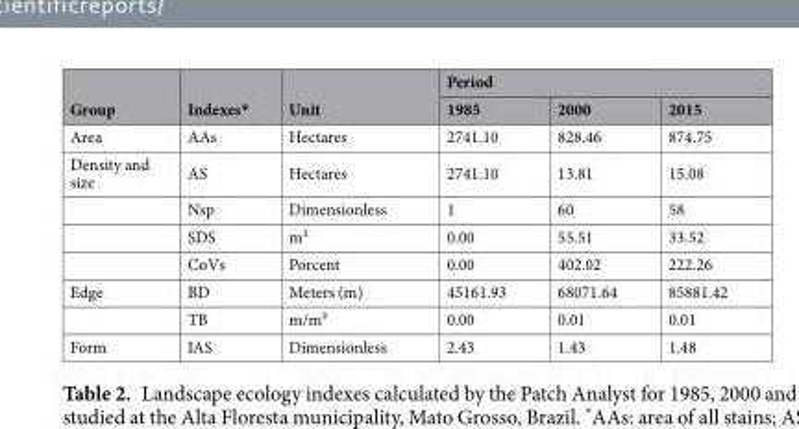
<table><thead><tr><td rowspan="2">Group</td><td rowspan="2">Indexes*</td><td rowspan="2">Unit</td><td colspan="3">Period</td></tr><tr><td>1985</td><td>2000</td><td>2015</td></tr></thead><tbody><tr><td>Area</td><td>AAs</td><td>Hectares</td><td>2741.10</td><td>828.46</td><td>874.75</td></tr><tr><td rowspan="4">Density and size</td><td>AS</td><td>Hectares</td><td>2741.10</td><td>13.81</td><td>15.08</td></tr><tr><td>Nsp</td><td>Dimensionless</td><td>1</td><td>60</td><td>58</td></tr><tr><td>SDS</td><td>m²</td><td>0.00</td><td>55.51</td><td>33.52</td></tr><tr><td>CoVs</td><td>Porcent</td><td>0.00</td><td>402.02</td><td>222.26</td></tr><tr><td rowspan="2">Edge</td><td>BD</td><td>Meters (m)</td><td>45161.93</td><td>68071.64</td><td>85881.42</td></tr><tr><td>TB</td><td>m/m²</td><td>0.00</td><td>0.01</td><td>0.01</td></tr><tr><td>Form</td><td>IAS</td><td>Dimensionless</td><td>2.43</td><td>1.43</td><td>1.48</td></tr></tbody></table>